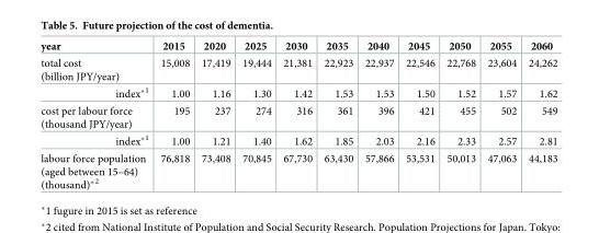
<table><thead><tr><td>year</td><td>2015</td><td>2020</td><td>2025</td><td>2030</td><td>2035</td><td>2040</td><td>2045</td><td>2050</td><td>2055</td><td>2060</td></tr></thead><tbody><tr><td>total cost (billion JPY/year)</td><td>15,008</td><td>17,419</td><td>19,444</td><td>21,381</td><td>22,923</td><td>22,937</td><td>22,546</td><td>22,768</td><td>23,604</td><td>24,262</td></tr><tr><td>index*<sup>1</sup></td><td>1.00</td><td>1.16</td><td>1.30</td><td>1.42</td><td>1.53</td><td>1.53</td><td>1.50</td><td>1.52</td><td>1.57</td><td>1.62</td></tr><tr><td>cost per labour force (thousand JPY/year)</td><td>195</td><td>237</td><td>274</td><td>316</td><td>361</td><td>396</td><td>421</td><td>455</td><td>502</td><td>549</td></tr><tr><td>index*<sup>1</sup></td><td>1.00</td><td>1.21</td><td>1.40</td><td>1.62</td><td>1.85</td><td>2.03</td><td>2.16</td><td>2.33</td><td>2.57</td><td>2.81</td></tr><tr><td>labour force population (aged between 15–64) (thousand)*<sup>2</sup></td><td>76,818</td><td>73,408</td><td>70,845</td><td>67,730</td><td>63,430</td><td>57,866</td><td>53,531</td><td>50,013</td><td>47,063</td><td>44,183</td></tr></tbody></table>